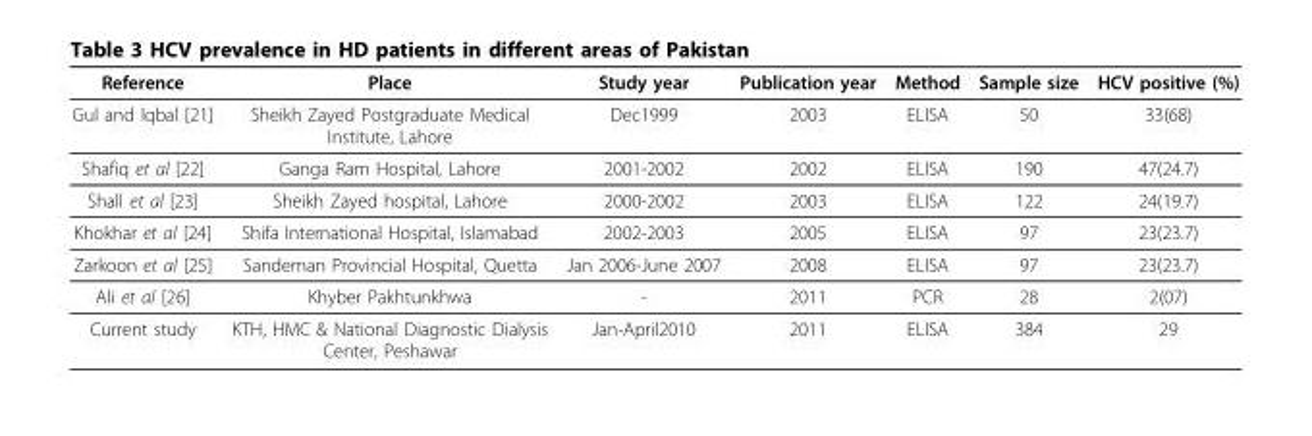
<table><thead><tr><td>Reference</td><td>Place</td><td>Study year</td><td>Publication year</td><td>Method</td><td>Sample size</td><td>HCV positive (%)</td></tr></thead><tbody><tr><td>Gul and Iqbal [21]</td><td>Sheikh Zayed Postgraduate Medical Institute, Lahore</td><td>Dec1999</td><td>2003</td><td>ELISA</td><td>50</td><td>33(68)</td></tr><tr><td>Shafiq et al [22]</td><td>Ganga Ram Hospital, Lahore</td><td>2001-2002</td><td>2002</td><td>ELISA</td><td>190</td><td>47(24.7)</td></tr><tr><td>Shall et al [23]</td><td>Sheikh Zayed hospital, Lahore</td><td>2000-2002</td><td>2003</td><td>ELISA</td><td>122</td><td>24(19.7)</td></tr><tr><td>Khokhar et al [24]</td><td>Shifa International Hospital, Islamabad</td><td>2002-2003</td><td>2005</td><td>ELISA</td><td>97</td><td>23(23.7)</td></tr><tr><td>Zarkoon et al [25]</td><td>Sandeman Provincial Hospital, Quetta</td><td>Jan 2006-June 2007</td><td>2008</td><td>ELISA</td><td>97</td><td>23(23.7)</td></tr><tr><td>Ali et al [26]</td><td>Khyber Pakhtunkhwa</td><td>-</td><td>2011</td><td>PCR</td><td>28</td><td>2(07)</td></tr><tr><td>Current study</td><td>KTH, HMC &amp; National Diagnostic Dialysis Center, Peshawar</td><td>Jan-April2010</td><td>2011</td><td>ELISA</td><td>384</td><td>29</td></tr></tbody></table>